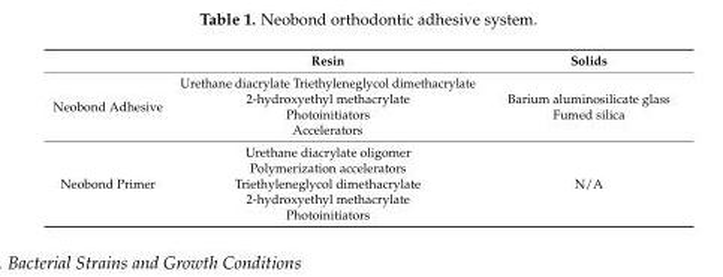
<table><thead><tr><td></td><td>Resin</td><td>Solids</td></tr></thead><tbody><tr><td>Neobond Adhesive</td><td>Urethane diacrylate Triethyleneglycol dimethacrylate 2-hydroxyethyl methacrylate Photoinitiators Accelerators</td><td>Barium aluminosilicate glass Fumed silica</td></tr><tr><td>Neobond Primer</td><td>Urethane diacrylate oligomer Polymerization accelerators Triethyleneglycol dimethacrylate 2-hydroxyethyl methacrylate Photoinitiators</td><td>N/A</td></tr></tbody></table>